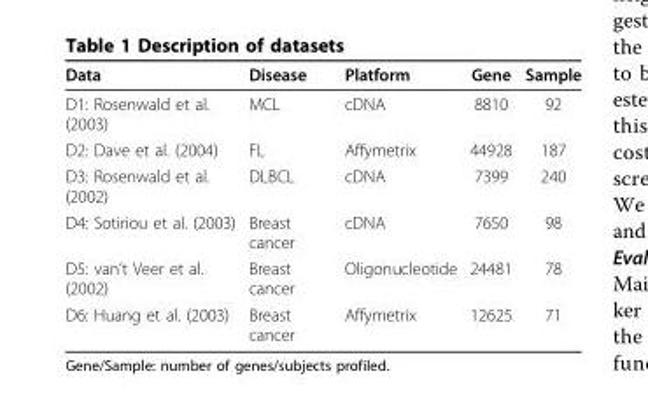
<table><thead><tr><td>Data</td><td>Disease</td><td>Platform</td><td>Gene</td><td>Sample</td></tr></thead><tbody><tr><td>D1: Rosenwald et al. (2003)</td><td>MCL</td><td>cDNA</td><td>8810</td><td>92</td></tr><tr><td>D2: Dave et al. (2004)</td><td>FL</td><td>Affymetrix</td><td>44928</td><td>187</td></tr><tr><td>D3: Rosenwald et al. (2002)</td><td>DLBCL</td><td>cDNA</td><td>7399</td><td>240</td></tr><tr><td>D4: Sotiriou et al. (2003)</td><td>Breast cancer</td><td>cDNA</td><td>7650</td><td>98</td></tr><tr><td>D5: van’t Veer et al. (2002)</td><td>Breast cancer</td><td>Oligonucleotide</td><td>24481</td><td>78</td></tr><tr><td>D6: Huang et al. (2003)</td><td>Breast cancer</td><td>Affymetrix</td><td>12625</td><td>71</td></tr></tbody></table>